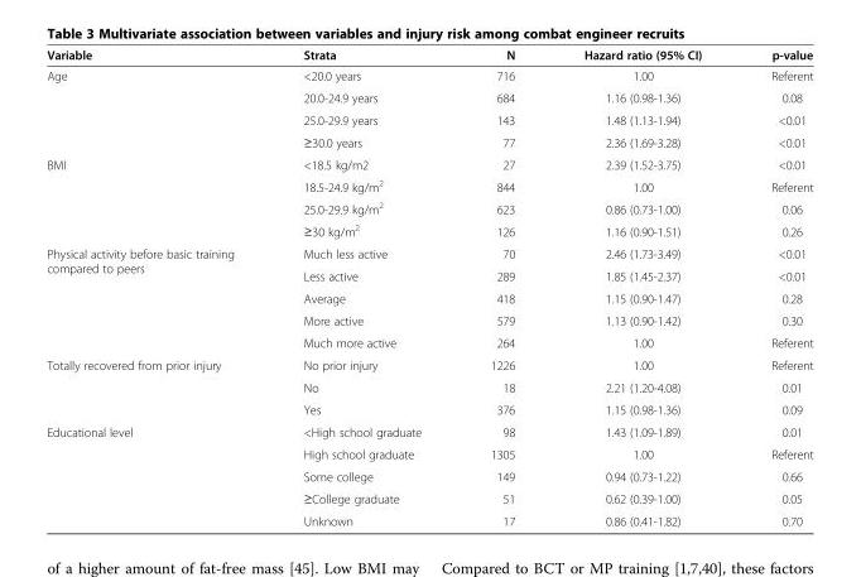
<table><thead><tr><td>Variable</td><td>Strata</td><td>N</td><td>Hazard ratio (95% CI)</td><td>p-value</td></tr></thead><tbody><tr><td rowspan="4">Age</td><td>&lt;20.0 years</td><td>716</td><td>1.00</td><td>Referent</td></tr><tr><td>20.0-24.9 years</td><td>684</td><td>1.16 (0.98-1.36)</td><td>0.08</td></tr><tr><td>25.0-29.9 years</td><td>143</td><td>1.48 (1.13-1.94)</td><td>&lt;0.01</td></tr><tr><td>≥30.0 years</td><td>77</td><td>2.36 (1.69-3.28)</td><td>&lt;0.01</td></tr><tr><td rowspan="4">BMI</td><td>&lt;18.5 kg/m2</td><td>27</td><td>2.39 (1.52-3.75)</td><td>&lt;0.01</td></tr><tr><td>18.5-24.9 kg/m<sup>2</sup></td><td>844</td><td>1.00</td><td>Referent</td></tr><tr><td>25.0-29.9 kg/m<sup>2</sup></td><td>623</td><td>0.86 (0.73-1.00)</td><td>0.06</td></tr><tr><td>≥30 kg/m<sup>2</sup></td><td>126</td><td>1.16 (0.90-1.51)</td><td>0.26</td></tr><tr><td rowspan="5">Physical activity before basic training compared to peers</td><td>Much less active</td><td>70</td><td>2.46 (1.73-3.49)</td><td>&lt;0.01</td></tr><tr><td>Less active</td><td>289</td><td>1.85 (1.45-2.37)</td><td>&lt;0.01</td></tr><tr><td>Average</td><td>418</td><td>1.15 (0.90-1.47)</td><td>0.28</td></tr><tr><td>More active</td><td>579</td><td>1.13 (0.90-1.42)</td><td>0.30</td></tr><tr><td>Much more active</td><td>264</td><td>1.00</td><td>Referent</td></tr><tr><td rowspan="3">Totally recovered from prior injury</td><td>No prior injury</td><td>1226</td><td>1.00</td><td>Referent</td></tr><tr><td>No</td><td>18</td><td>2.21 (1.20-4.08)</td><td>0.01</td></tr><tr><td>Yes</td><td>376</td><td>1.15 (0.98-1.36)</td><td>0.09</td></tr><tr><td rowspan="5">Educational level</td><td>&lt;High school graduate</td><td>98</td><td>1.43 (1.09-1.89)</td><td>0.01</td></tr><tr><td>High school graduate</td><td>1305</td><td>1.00</td><td>Referent</td></tr><tr><td>Some college</td><td>149</td><td>0.94 (0.73-1.22)</td><td>0.66</td></tr><tr><td>≥College graduate</td><td>51</td><td>0.62 (0.39-1.00)</td><td>0.05</td></tr><tr><td>Unknown</td><td>17</td><td>0.86 (0.41-1.82)</td><td>0.70</td></tr></tbody></table>